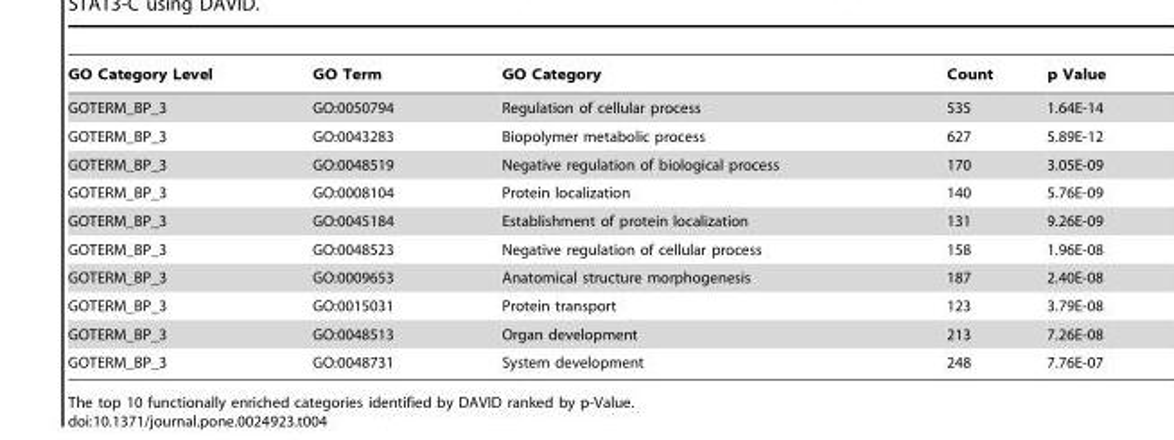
<table><thead><tr><td>GO Category Level</td><td>GO Term</td><td>GO Category</td><td>Count</td><td>p Value</td></tr></thead><tbody><tr><td>GOTERM_BP_3</td><td>GO:0050794</td><td>Regulation of cellular process</td><td>535</td><td>1.64E-14</td></tr><tr><td>GOTERM_BP_3</td><td>GO:0043283</td><td>Biopolymer metabolic process</td><td>627</td><td>5.89E-12</td></tr><tr><td>GOTERM_BP_3</td><td>GO:0048519</td><td>Negative regulation of biological process</td><td>170</td><td>3.05E-09</td></tr><tr><td>GOTERM_BP_3</td><td>GO:0008104</td><td>Protein localization</td><td>140</td><td>5.76E-09</td></tr><tr><td>GOTERM_BP_3</td><td>GO:0045184</td><td>Establishment of protein localization</td><td>131</td><td>9.26E-09</td></tr><tr><td>GOTERM_BP_3</td><td>GO:0048523</td><td>Negative regulation of cellular process</td><td>158</td><td>1.96E-08</td></tr><tr><td>GOTERM_BP_3</td><td>GO:0009653</td><td>Anatomical structure morphogenesis</td><td>187</td><td>2.40E-08</td></tr><tr><td>GOTERM_BP_3</td><td>GO:0015031</td><td>Protein transport</td><td>123</td><td>3.79E-08</td></tr><tr><td>GOTERM_BP_3</td><td>GO:0048513</td><td>Organ development</td><td>213</td><td>7.26E-08</td></tr><tr><td>GOTERM_BP_3</td><td>GO:0048731</td><td>System development</td><td>248</td><td>7.76E-07</td></tr></tbody></table>